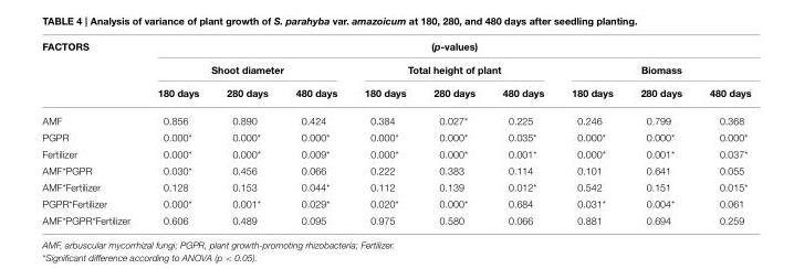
<table><thead><tr><td rowspan="3">FACTORS</td><td colspan="9">(p-values)</td></tr><tr><td colspan="3">Shoot diameter</td><td colspan="3">Total height of plant</td><td colspan="3">Biomass</td></tr><tr><td>180 days</td><td>280 days</td><td>480 days</td><td>180 days</td><td>280 days</td><td>480 days</td><td>180 days</td><td>280 days</td><td>480 days</td></tr></thead><tbody><tr><td>AMF</td><td>0.856</td><td>0.890</td><td>0.424</td><td>0.384</td><td>0.027*</td><td>0.225</td><td>0.246</td><td>0.799</td><td>0.368</td></tr><tr><td>PGPR</td><td>0.000*</td><td>0.000*</td><td>0.000*</td><td>0.000*</td><td>0.000*</td><td>0.035*</td><td>0.000*</td><td>0.000*</td><td>0.000*</td></tr><tr><td>Fertilizer</td><td>0.000*</td><td>0.000*</td><td>0.009*</td><td>0.000*</td><td>0.000*</td><td>0.001*</td><td>0.000*</td><td>0.001*</td><td>0.037*</td></tr><tr><td>AMF*PGPR</td><td>0.030*</td><td>0.456</td><td>0.066</td><td>0.222</td><td>0.383</td><td>0.114</td><td>0.101</td><td>0.641</td><td>0.055</td></tr><tr><td>AMF*Fertilizer</td><td>0.128</td><td>0.153</td><td>0.044*</td><td>0.112</td><td>0.139</td><td>0.012*</td><td>0.542</td><td>0.151</td><td>0.015*</td></tr><tr><td>PGPR*Fertilizer</td><td>0.000*</td><td>0.001*</td><td>0.029*</td><td>0.020*</td><td>0.000*</td><td>0.684</td><td>0.031*</td><td>0.004*</td><td>0.061</td></tr><tr><td>AMF*PGPR*Fertilizer</td><td>0.606</td><td>0.489</td><td>0.095</td><td>0.975</td><td>0.580</td><td>0.066</td><td>0.881</td><td>0.694</td><td>0.259</td></tr></tbody></table>